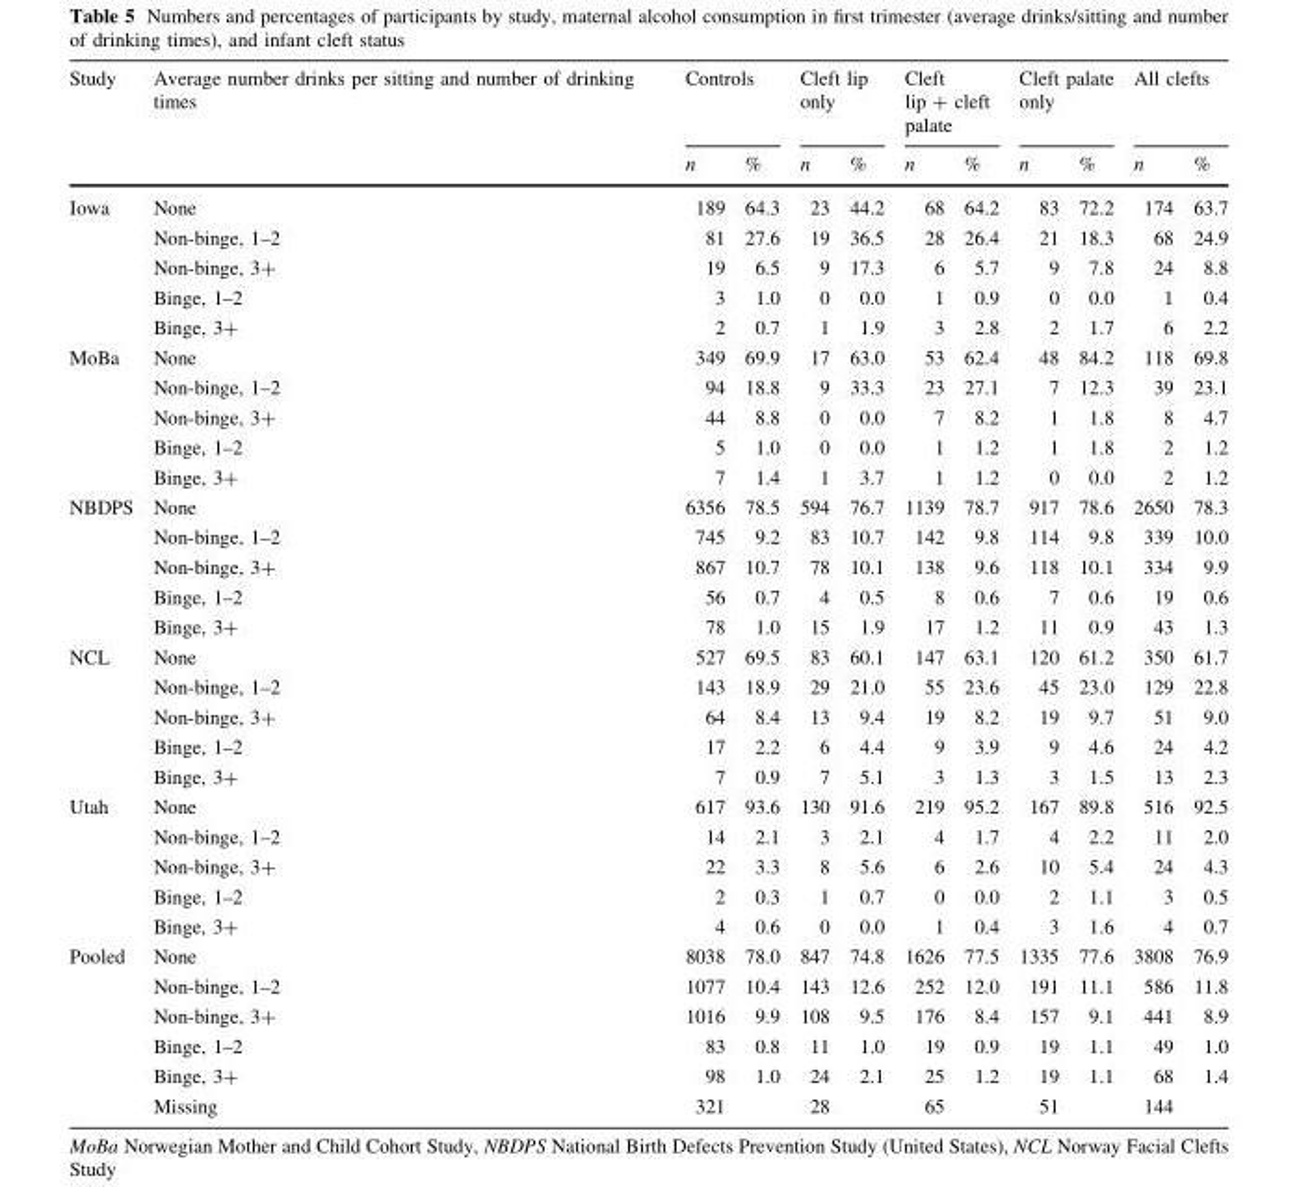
<table><thead><tr><td rowspan="2">Study</td><td rowspan="2">Average number drinks per sitting and number of drinking times</td><td colspan="2">Controls</td><td colspan="2">Cleft lip only</td><td colspan="2">Cleft lip + cleft palate</td><td colspan="2">Cleft palate only</td><td colspan="2">All clefts</td></tr><tr><td>n</td><td>%</td><td>n</td><td>%</td><td>n</td><td>%</td><td>n</td><td>%</td><td>n</td><td>%</td></tr></thead><tbody><tr><td rowspan="5">Iowa</td><td>None</td><td>189</td><td>64.3</td><td>23</td><td>44.2</td><td>68</td><td>64.2</td><td>83</td><td>72.2</td><td>174</td><td>63.7</td></tr><tr><td>Non-binge, 1–2</td><td>81</td><td>27.6</td><td>19</td><td>36.5</td><td>28</td><td>26.4</td><td>21</td><td>18.3</td><td>68</td><td>24.9</td></tr><tr><td>Non-binge, 3+</td><td>19</td><td>6.5</td><td>9</td><td>17.3</td><td>6</td><td>5.7</td><td>9</td><td>7.8</td><td>24</td><td>8.8</td></tr><tr><td>Binge, 1–2</td><td>3</td><td>1.0</td><td>0</td><td>0.0</td><td>1</td><td>0.9</td><td>0</td><td>0.0</td><td>1</td><td>0.4</td></tr><tr><td>Binge, 3+</td><td>2</td><td>0.7</td><td>1</td><td>1.9</td><td>3</td><td>2.8</td><td>2</td><td>1.7</td><td>6</td><td>2.2</td></tr><tr><td rowspan="5">MoBa</td><td>None</td><td>349</td><td>69.9</td><td>17</td><td>63.0</td><td>53</td><td>62.4</td><td>48</td><td>84.2</td><td>118</td><td>69.8</td></tr><tr><td>Non-binge, 1–2</td><td>94</td><td>18.8</td><td>9</td><td>33.3</td><td>23</td><td>27.1</td><td>7</td><td>12.3</td><td>39</td><td>23.1</td></tr><tr><td>Non-binge, 3+</td><td>44</td><td>8.8</td><td>0</td><td>0.0</td><td>7</td><td>8.2</td><td>1</td><td>1.8</td><td>8</td><td>4.7</td></tr><tr><td>Binge, 1–2</td><td>5</td><td>1.0</td><td>0</td><td>0.0</td><td>1</td><td>1.2</td><td>1</td><td>1.8</td><td>2</td><td>1.2</td></tr><tr><td>Binge, 3+</td><td>7</td><td>1.4</td><td>1</td><td>3.7</td><td>1</td><td>1.2</td><td>0</td><td>0.0</td><td>2</td><td>1.2</td></tr><tr><td rowspan="5">NBDPS</td><td>None</td><td>6356</td><td>78.5</td><td>594</td><td>76.7</td><td>1139</td><td>78.7</td><td>917</td><td>78.6</td><td>2650</td><td>78.3</td></tr><tr><td>Non-binge, 1–2</td><td>745</td><td>9.2</td><td>83</td><td>10.7</td><td>142</td><td>9.8</td><td>114</td><td>9.8</td><td>339</td><td>10.0</td></tr><tr><td>Non-binge, 3+</td><td>867</td><td>10.7</td><td>78</td><td>10.1</td><td>138</td><td>9.6</td><td>118</td><td>10.1</td><td>334</td><td>9.9</td></tr><tr><td>Binge, 1–2</td><td>56</td><td>0.7</td><td>4</td><td>0.5</td><td>8</td><td>0.6</td><td>7</td><td>0.6</td><td>19</td><td>0.6</td></tr><tr><td>Binge, 3+</td><td>78</td><td>1.0</td><td>15</td><td>1.9</td><td>17</td><td>1.2</td><td>11</td><td>0.9</td><td>43</td><td>1.3</td></tr><tr><td rowspan="5">NCL</td><td>None</td><td>527</td><td>69.5</td><td>83</td><td>60.1</td><td>147</td><td>63.1</td><td>120</td><td>61.2</td><td>350</td><td>61.7</td></tr><tr><td>Non-binge, 1–2</td><td>143</td><td>18.9</td><td>29</td><td>21.0</td><td>55</td><td>23.6</td><td>45</td><td>23.0</td><td>129</td><td>22.8</td></tr><tr><td>Non-binge, 3+</td><td>64</td><td>8.4</td><td>13</td><td>9.4</td><td>19</td><td>8.2</td><td>19</td><td>9.7</td><td>51</td><td>9.0</td></tr><tr><td>Binge, 1–2</td><td>17</td><td>2.2</td><td>6</td><td>4.4</td><td>9</td><td>3.9</td><td>9</td><td>4.6</td><td>24</td><td>4.2</td></tr><tr><td>Binge, 3+</td><td>7</td><td>0.9</td><td>7</td><td>5.1</td><td>3</td><td>1.3</td><td>3</td><td>1.5</td><td>13</td><td>2.3</td></tr><tr><td rowspan="5">Utah</td><td>None</td><td>617</td><td>93.6</td><td>130</td><td>91.6</td><td>219</td><td>95.2</td><td>167</td><td>89.8</td><td>516</td><td>92.5</td></tr><tr><td>Non-binge, 1–2</td><td>14</td><td>2.1</td><td>3</td><td>2.1</td><td>4</td><td>1.7</td><td>4</td><td>2.2</td><td>11</td><td>2.0</td></tr><tr><td>Non-binge, 3+</td><td>22</td><td>3.3</td><td>8</td><td>5.6</td><td>6</td><td>2.6</td><td>10</td><td>5.4</td><td>24</td><td>4.3</td></tr><tr><td>Binge, 1–2</td><td>2</td><td>0.3</td><td>1</td><td>0.7</td><td>0</td><td>0.0</td><td>2</td><td>1.1</td><td>3</td><td>0.5</td></tr><tr><td>Binge, 3+</td><td>4</td><td>0.6</td><td>0</td><td>0.0</td><td>1</td><td>0.4</td><td>3</td><td>1.6</td><td>4</td><td>0.7</td></tr><tr><td rowspan="6">Pooled</td><td>None</td><td>8038</td><td>78.0</td><td>847</td><td>74.8</td><td>1626</td><td>77.5</td><td>1335</td><td>77.6</td><td>3808</td><td>76.9</td></tr><tr><td>Non-binge, 1–2</td><td>1077</td><td>10.4</td><td>143</td><td>12.6</td><td>252</td><td>12.0</td><td>191</td><td>11.1</td><td>586</td><td>11.8</td></tr><tr><td>Non-binge, 3+</td><td>1016</td><td>9.9</td><td>108</td><td>9.5</td><td>176</td><td>8.4</td><td>157</td><td>9.1</td><td>441</td><td>8.9</td></tr><tr><td>Binge, 1–2</td><td>83</td><td>0.8</td><td>11</td><td>1.0</td><td>19</td><td>0.9</td><td>19</td><td>1.1</td><td>49</td><td>1.0</td></tr><tr><td>Binge, 3+</td><td>98</td><td>1.0</td><td>24</td><td>2.1</td><td>25</td><td>1.2</td><td>19</td><td>1.1</td><td>68</td><td>1.4</td></tr><tr><td>Missing</td><td>321</td><td></td><td>28</td><td></td><td>65</td><td></td><td>51</td><td></td><td>144</td><td></td></tr></tbody></table>